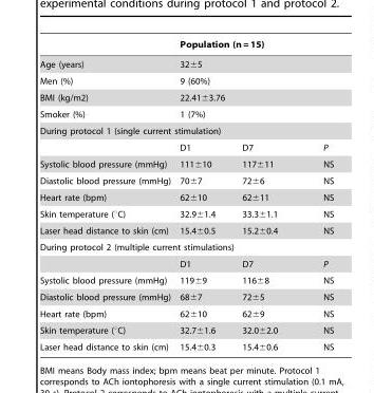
<table><thead><tr><td></td><td colspan="3">Population (n = 15)</td></tr></thead><tbody><tr><td>Age (years)</td><td colspan="3">32±5</td></tr><tr><td>Men (%)</td><td colspan="3">9 (60%)</td></tr><tr><td>BMI (kg/m2)</td><td colspan="3">22.41±3.76</td></tr><tr><td>Smoker (%)</td><td colspan="3">1 (7%)</td></tr><tr><td colspan="4">During protocol 1 (single current stimulation)</td></tr><tr><td></td><td>D1</td><td>D7</td><td>P</td></tr><tr><td>Systolic blood pressure (mmHg)</td><td>111±10</td><td>117±11</td><td>NS</td></tr><tr><td>Diastolic blood pressure (mmHg)</td><td>70±7</td><td>72±6</td><td>NS</td></tr><tr><td>Heart rate (bpm)</td><td>62±10</td><td>62±11</td><td>NS</td></tr><tr><td>Skin temperature (°C)</td><td>32.9±1.4</td><td>33.3±1.1</td><td>NS</td></tr><tr><td>Laser head distance to skin (cm)</td><td>15.4±0.5</td><td>15.2±0.4</td><td>NS</td></tr><tr><td colspan="4">During protocol 2 (multiple current stimulations)</td></tr><tr><td></td><td>D1</td><td>D7</td><td>P</td></tr><tr><td>Systolic blood pressure (mmHg)</td><td>119±9</td><td>116±8</td><td>NS</td></tr><tr><td>Diastolic blood pressure (mmHg)</td><td>68±7</td><td>72±5</td><td>NS</td></tr><tr><td>Heart rate (bpm)</td><td>62±10</td><td>62±9</td><td>NS</td></tr><tr><td>Skin temperature (°C)</td><td>32.7±1.6</td><td>32.0±2.0</td><td>NS</td></tr><tr><td>Laser head distance to skin (cm)</td><td>15.4±0.3</td><td>15.4±0.6</td><td>NS</td></tr></tbody></table>